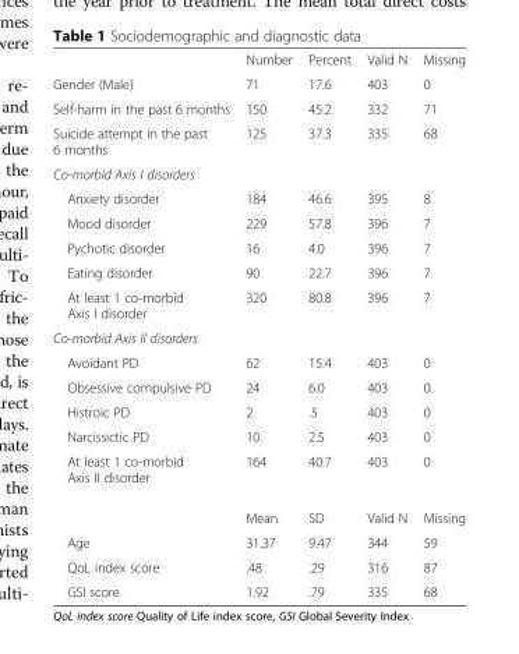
<table><thead><tr><td></td><td>Number</td><td>Percent</td><td>Valid N</td><td>Missing</td></tr></thead><tbody><tr><td>Gender (Male)</td><td>71</td><td>17.6</td><td>403</td><td>0</td></tr><tr><td>Self-harm in the past 6 months</td><td>150</td><td>45.2</td><td>332</td><td>71</td></tr><tr><td>Suicide attempt in the past 6 months</td><td>125</td><td>37.3</td><td>335</td><td>68</td></tr><tr><td colspan="5">Co-morbid Axis I disorders</td></tr><tr><td>Anxiety disorder</td><td>184</td><td>46.6</td><td>395</td><td>8</td></tr><tr><td>Mood disorder</td><td>229</td><td>57.8</td><td>396</td><td>7</td></tr><tr><td>Pychotic disorder</td><td>16</td><td>4.0</td><td>396</td><td>7</td></tr><tr><td>Eating disorder</td><td>90</td><td>22.7</td><td>396</td><td>7</td></tr><tr><td>At least 1 co-morbid Axis I disorder</td><td>320</td><td>80.8</td><td>396</td><td>7</td></tr><tr><td colspan="5">Co-morbid Axis II disorders</td></tr><tr><td>Avoidant PD</td><td>62</td><td>15.4</td><td>403</td><td>0</td></tr><tr><td>Obsessive compulsive PD</td><td>24</td><td>6.0</td><td>403</td><td>0</td></tr><tr><td>Histroic PD</td><td>2</td><td>.5</td><td>403</td><td>0</td></tr><tr><td>Narcissictic PD</td><td>10</td><td>2.5</td><td>403</td><td>0</td></tr><tr><td rowspan="2">At least 1 co-morbid Axis II disorder</td><td>164</td><td>40.7</td><td>403</td><td>0</td></tr><tr><td>Mean</td><td>SD</td><td>Valid N</td><td>Missing</td></tr><tr><td>Age</td><td>31.37</td><td>9.47</td><td>344</td><td>59</td></tr><tr><td>QoL index score</td><td>.48</td><td>.29</td><td>316</td><td>87</td></tr><tr><td>GSI score</td><td>1.92</td><td>.79</td><td>335</td><td>68</td></tr></tbody></table>